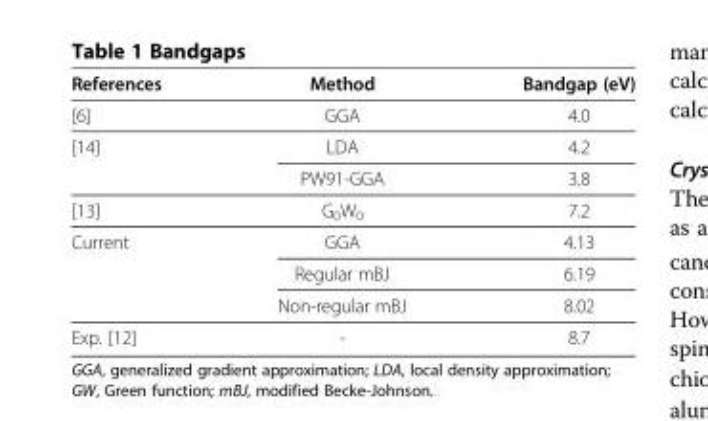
<table><thead><tr><td>References</td><td>Method</td><td>Bandgap (eV)</td></tr></thead><tbody><tr><td>[6]</td><td>GGA</td><td>4.0</td></tr><tr><td rowspan="2">[14]</td><td>LDA</td><td>4.2</td></tr><tr><td>PW91-GGA</td><td>3.8</td></tr><tr><td>[13]</td><td>G<sub>0</sub>W<sub>0</sub></td><td>7.2</td></tr><tr><td rowspan="3">Current</td><td>GGA</td><td>4.13</td></tr><tr><td>Regular mBJ</td><td>6.19</td></tr><tr><td>Non-regular mBJ</td><td>8.02</td></tr><tr><td>Exp. [12]</td><td>-</td><td>8.7</td></tr></tbody></table>